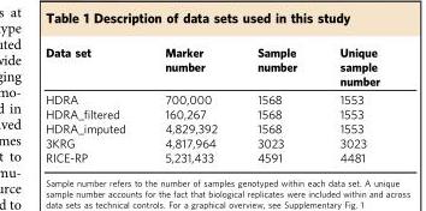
<table><thead><tr><td>Data set</td><td>Marker number</td><td>Sample number</td><td>Unique sample number</td></tr></thead><tbody><tr><td>HDRA</td><td>700,000</td><td>1568</td><td>1553</td></tr><tr><td>HDRA_filtered</td><td>160,267</td><td>1568</td><td>1553</td></tr><tr><td>HDRA_imputed</td><td>4,829,392</td><td>1568</td><td>1553</td></tr><tr><td>3KRG</td><td>4,817,964</td><td>3023</td><td>3023</td></tr><tr><td>RICE-RP</td><td>5,231,433</td><td>4591</td><td>4481</td></tr></tbody></table>